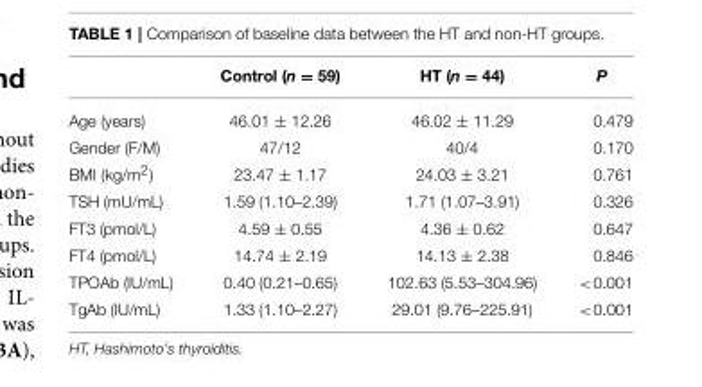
<table><thead><tr><td></td><td>Control (n = 59)</td><td>HT (n = 44)</td><td>P</td></tr></thead><tbody><tr><td>Age (years)</td><td>46.01 ± 12.26</td><td>46.02 ± 11.29</td><td>0.479</td></tr><tr><td>Gender (F/M)</td><td>47/12</td><td>40/4</td><td>0.170</td></tr><tr><td>BMI (kg/m<sup>2</sup>)</td><td>23.47 ± 1.17</td><td>24.03 ± 3.21</td><td>0.761</td></tr><tr><td>TSH (mU/mL)</td><td>1.59 (1.10–2.39)</td><td>1.71 (1.07–3.91)</td><td>0.326</td></tr><tr><td>FT3 (pmol/L)</td><td>4.59 ± 0.55</td><td>4.36 ± 0.62</td><td>0.647</td></tr><tr><td>FT4 (pmol/L)</td><td>14.74 ± 2.19</td><td>14.13 ± 2.38</td><td>0.846</td></tr><tr><td>TPOAb (IU/mL)</td><td>0.40 (0.21–0.65)</td><td>102.63 (5.53–304.96)</td><td>&lt;0.001</td></tr><tr><td>TgAb (IU/mL)</td><td>1.33 (1.10–2.27)</td><td>29.01 (9.76–225.91)</td><td>&lt;0.001</td></tr></tbody></table>